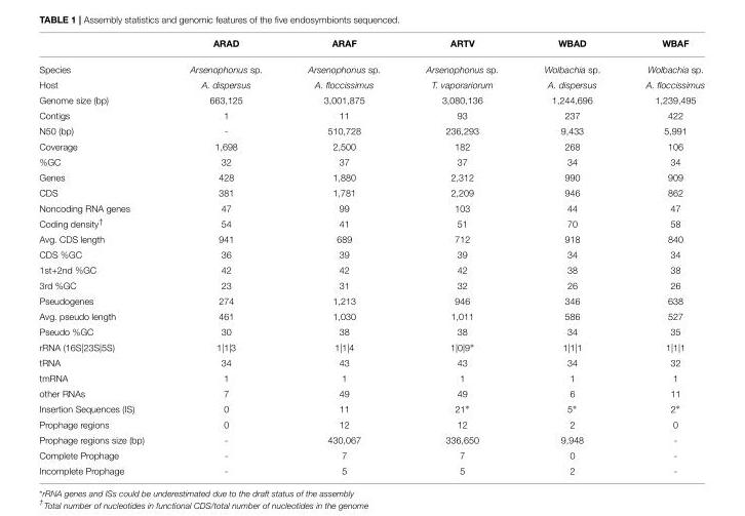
<table><thead><tr><td></td><td>ARAD</td><td>ARAF</td><td>ARTV</td><td>WBAD</td><td>WBAF</td></tr></thead><tbody><tr><td>Species</td><td>Arsenophonus sp.</td><td>Arsenophonus sp.</td><td>Arsenophonus sp.</td><td>Wolbachia sp.</td><td>Wolbachia sp.</td></tr><tr><td>Host</td><td>A. dispersus</td><td>A. floccissimus</td><td>T. vaporariorum</td><td>A. dispersus</td><td>A. floccissimus</td></tr><tr><td>Genome size (bp)</td><td>663,125</td><td>3,001,875</td><td>3,080,136</td><td>1,244,696</td><td>1,239,495</td></tr><tr><td>Contigs</td><td>1</td><td>11</td><td>93</td><td>237</td><td>422</td></tr><tr><td>N50 (bp)</td><td>-</td><td>510,728</td><td>236,293</td><td>9,433</td><td>5,991</td></tr><tr><td>Coverage</td><td>1,698</td><td>2,500</td><td>182</td><td>268</td><td>106</td></tr><tr><td>%GC</td><td>32</td><td>37</td><td>37</td><td>34</td><td>34</td></tr><tr><td>Genes</td><td>428</td><td>1,880</td><td>2,312</td><td>990</td><td>909</td></tr><tr><td>CDS</td><td>381</td><td>1,781</td><td>2,209</td><td>946</td><td>862</td></tr><tr><td>Noncoding RNA genes</td><td>47</td><td>99</td><td>103</td><td>44</td><td>47</td></tr><tr><td>Coding density<sup>†</sup></td><td>54</td><td>41</td><td>51</td><td>70</td><td>58</td></tr><tr><td>Avg. CDS length</td><td>941</td><td>689</td><td>712</td><td>918</td><td>840</td></tr><tr><td>CDS %GC</td><td>36</td><td>39</td><td>39</td><td>34</td><td>34</td></tr><tr><td>1st+2nd %GC</td><td>42</td><td>42</td><td>42</td><td>38</td><td>38</td></tr><tr><td>3rd %GC</td><td>23</td><td>31</td><td>32</td><td>26</td><td>26</td></tr><tr><td>Pseudogenes</td><td>274</td><td>1,213</td><td>946</td><td>346</td><td>638</td></tr><tr><td>Avg. pseudo length</td><td>461</td><td>1,030</td><td>1,011</td><td>586</td><td>527</td></tr><tr><td>Pseudo %GC</td><td>30</td><td>38</td><td>38</td><td>34</td><td>35</td></tr><tr><td>rRNA (16S|23S|5S)</td><td>1|1|3</td><td>1|1|4</td><td>1|0|9∗</td><td>1|1|1</td><td>1|1|1</td></tr><tr><td>tRNA</td><td>34</td><td>43</td><td>43</td><td>34</td><td>32</td></tr><tr><td>tmRNA</td><td>1</td><td>1</td><td>1</td><td>1</td><td>1</td></tr><tr><td>other RNAs</td><td>7</td><td>49</td><td>49</td><td>6</td><td>11</td></tr><tr><td>Insertion Sequences (IS)</td><td>0</td><td>11</td><td>21∗</td><td>5∗</td><td>2∗</td></tr><tr><td>Prophage regions</td><td>0</td><td>12</td><td>12</td><td>2</td><td>0</td></tr><tr><td>Prophage regions size (bp)</td><td>-</td><td>430,067</td><td>336,650</td><td>9,948</td><td>-</td></tr><tr><td>Complete Prophage</td><td>-</td><td>7</td><td>7</td><td>0</td><td>-</td></tr><tr><td>Incomplete Prophage</td><td>-</td><td>5</td><td>5</td><td>2</td><td>-</td></tr></tbody></table>